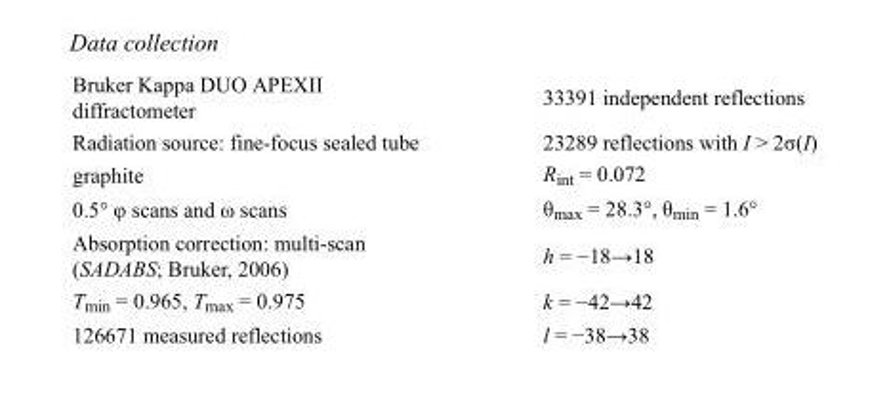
<table><tbody><tr><td>Bruker Kappa DUO APEXII diffractometer</td><td>33391 independent reflections</td></tr><tr><td>Radiation source: fine-focus sealed tube</td><td>23289 reflections with I &gt; 2σ(I)</td></tr><tr><td>graphite</td><td>R<sub>int</sub> = 0.072</td></tr><tr><td>0.5° φ scans and ω scans</td><td>θ<sub>max</sub> = 28.3°, θ<sub>min</sub> = 1.6°</td></tr><tr><td>Absorption correction: multi-scan (SADABS; Bruker, 2006)</td><td>h = −18→18</td></tr><tr><td>T<sub>min</sub> = 0.965, T<sub>max</sub> = 0.975</td><td>k = −42→42</td></tr><tr><td>126671 measured reflections</td><td>l = −38→38</td></tr></tbody></table>